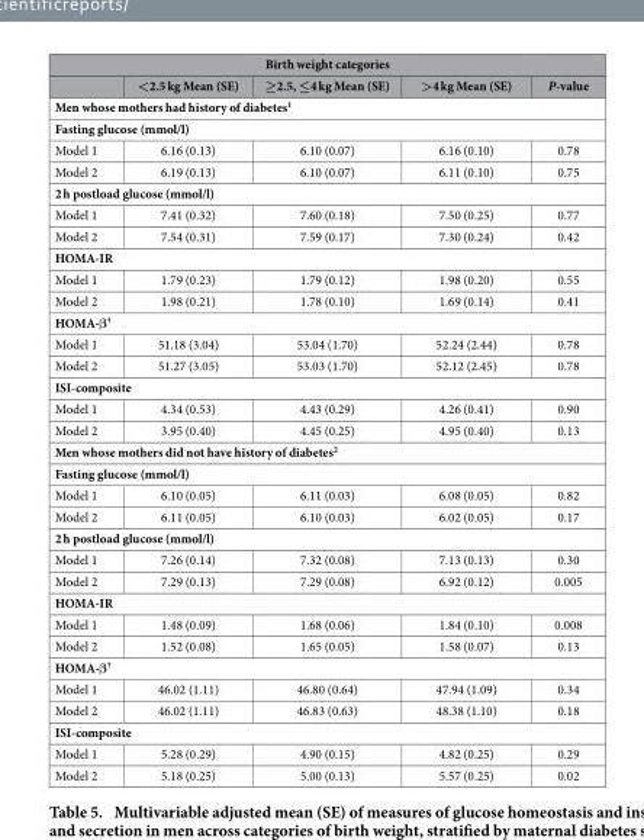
<table><thead><tr><td colspan="5">Birth weight categories</td></tr><tr><td></td><td>&lt;2.5 kg Mean (SE)</td><td>≥2.5, ≤4 kg Mean (SE)</td><td>&gt;4 kg Mean (SE)</td><td>P-value</td></tr></thead><tbody><tr><td colspan="5">Men whose mothers had history of diabetes<sup>1</sup></td></tr><tr><td colspan="5">Fasting glucose (mmol/l)</td></tr><tr><td>Model 1</td><td>6.16 (0.13)</td><td>6.10 (0.07)</td><td>6.16 (0.10)</td><td>0.78</td></tr><tr><td>Model 2</td><td>6.19 (0.13)</td><td>6.10 (0.07)</td><td>6.11 (0.10)</td><td>0.75</td></tr><tr><td colspan="5">2 h postload glucose (mmol/l)</td></tr><tr><td>Model 1</td><td>7.41 (0.32)</td><td>7.60 (0.18)</td><td>7.50 (0.25)</td><td>0.77</td></tr><tr><td>Model 2</td><td>7.54 (0.31)</td><td>7.59 (0.17)</td><td>7.30 (0.24)</td><td>0.42</td></tr><tr><td colspan="5">HOMA-IR</td></tr><tr><td>Model 1</td><td>1.79 (0.23)</td><td>1.79 (0.12)</td><td>1.98 (0.20)</td><td>0.55</td></tr><tr><td>Model 2</td><td>1.98 (0.21)</td><td>1.78 (0.10)</td><td>1.69 (0.14)</td><td>0.41</td></tr><tr><td colspan="5">HOMA-β<sup>†</sup></td></tr><tr><td>Model 1</td><td>51.18 (3.04)</td><td>53.04 (1.70)</td><td>52.24 (2.44)</td><td>0.78</td></tr><tr><td>Model 2</td><td>51.27 (3.05)</td><td>53.03 (1.70)</td><td>52.12 (2.45)</td><td>0.78</td></tr><tr><td colspan="5">ISI-composite</td></tr><tr><td>Model 1</td><td>4.34 (0.53)</td><td>4.43 (0.29)</td><td>4.26 (0.41)</td><td>0.90</td></tr><tr><td>Model 2</td><td>3.95 (0.40)</td><td>4.45 (0.25)</td><td>4.95 (0.40)</td><td>0.13</td></tr><tr><td colspan="5">Men whose mothers did not have history of diabetes<sup>2</sup></td></tr><tr><td colspan="5">Fasting glucose (mmol/l)</td></tr><tr><td>Model 1</td><td>6.10 (0.05)</td><td>6.11 (0.03)</td><td>6.08 (0.05)</td><td>0.82</td></tr><tr><td>Model 2</td><td>6.11 (0.05)</td><td>6.10 (0.03)</td><td>6.02 (0.05)</td><td>0.17</td></tr><tr><td colspan="5">2 h postload glucose (mmol/l)</td></tr><tr><td>Model 1</td><td>7.26 (0.14)</td><td>7.32 (0.08)</td><td>7.13 (0.13)</td><td>0.30</td></tr><tr><td>Model 2</td><td>7.29 (0.13)</td><td>7.29 (0.08)</td><td>6.92 (0.12)</td><td>0.005</td></tr><tr><td colspan="5">HOMA-IR</td></tr><tr><td>Model 1</td><td>1.48 (0.09)</td><td>1.68 (0.06)</td><td>1.84 (0.10)</td><td>0.008</td></tr><tr><td>Model 2</td><td>1.52 (0.08)</td><td>1.65 (0.05)</td><td>1.58 (0.07)</td><td>0.13</td></tr><tr><td colspan="5">HOMA-β<sup>†</sup></td></tr><tr><td>Model 1</td><td>46.02 (1.11)</td><td>46.80 (0.64)</td><td>47.94 (1.09)</td><td>0.34</td></tr><tr><td>Model 2</td><td>46.02 (1.11)</td><td>46.83 (0.63)</td><td>48.38 (1.10)</td><td>0.18</td></tr><tr><td colspan="5">ISI-composite</td></tr><tr><td>Model 1</td><td>5.28 (0.29)</td><td>4.90 (0.15)</td><td>4.82 (0.25)</td><td>0.29</td></tr><tr><td>Model 2</td><td>5.18 (0.25)</td><td>5.00 (0.13)</td><td>5.57 (0.25)</td><td>0.02</td></tr></tbody></table>